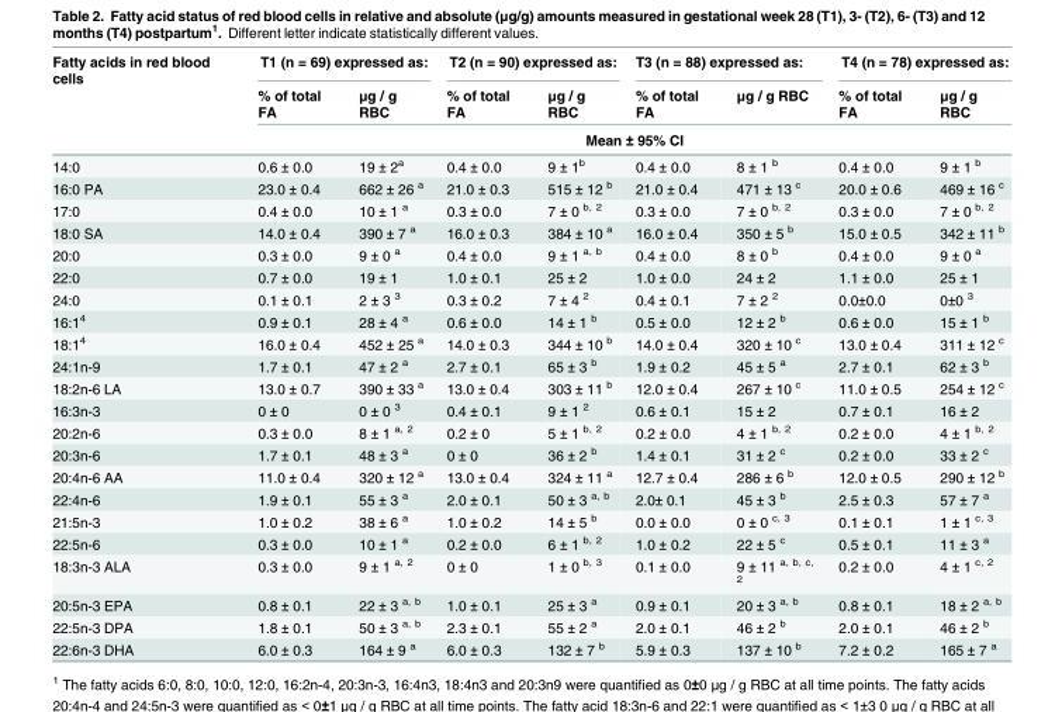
<table><thead><tr><td rowspan="3">Fatty acids in red blood cells</td><td colspan="2">T1 (n = 69) expressed as:</td><td colspan="2">T2 (n = 90) expressed as:</td><td colspan="2">T3 (n = 88) expressed as:</td><td colspan="2">T4 (n = 78) expressed as:</td></tr><tr><td>% of total FA</td><td>μg / g RBC</td><td>% of total FA</td><td>μg / g RBC</td><td>% of total FA</td><td>μg / g RBC</td><td>% of total FA</td><td>μg / g RBC</td></tr><tr><td colspan="8">Mean ± 95% CI</td></tr></thead><tbody><tr><td>14:0</td><td>0.6 ± 0.0</td><td>19 ± 2<sup>a</sup></td><td>0.4 ± 0.0</td><td>9 ± 1<sup>b</sup></td><td>0.4 ± 0.0</td><td>8 ± 1 <sup>b</sup></td><td>0.4 ± 0.0</td><td>9 ± 1 <sup>b</sup></td></tr><tr><td>16:0 PA</td><td>23.0 ± 0.4</td><td>662 ± 26 <sup>a</sup></td><td>21.0 ± 0.3</td><td>515 ± 12 <sup>b</sup></td><td>21.0 ± 0.4</td><td>471 ± 13 <sup>c</sup></td><td>20.0 ± 0.6</td><td>469 ± 16 <sup>c</sup></td></tr><tr><td>17:0</td><td>0.4 ± 0.0</td><td>10 ± 1 <sup>a</sup></td><td>0.3 ± 0.0</td><td>7 ± 0 <sup>b, 2</sup></td><td>0.3 ± 0.0</td><td>7 ± 0 <sup>b, 2</sup></td><td>0.3 ± 0.0</td><td>7 ± 0 <sup>b, 2</sup></td></tr><tr><td>18:0 SA</td><td>14.0 ± 0.4</td><td>390 ± 7 <sup>a</sup></td><td>16.0 ± 0.3</td><td>384 ± 10 <sup>a</sup></td><td>16.0 ± 0.4</td><td>350 ± 5 <sup>b</sup></td><td>15.0 ± 0.5</td><td>342 ± 11 <sup>b</sup></td></tr><tr><td>20:0</td><td>0.3 ± 0.0</td><td>9 ± 0 <sup>a</sup></td><td>0.4 ± 0.0</td><td>9 ± 1 <sup>a, b</sup></td><td>0.4 ± 0.0</td><td>8 ± 0 <sup>b</sup></td><td>0.4 ± 0.0</td><td>9 ± 0 <sup>a</sup></td></tr><tr><td>22:0</td><td>0.7 ± 0.0</td><td>19 ± 1</td><td>1.0 ± 0.1</td><td>25 ± 2</td><td>1.0 ± 0.0</td><td>24 ± 2</td><td>1.1 ± 0.0</td><td>25 ± 1</td></tr><tr><td>24:0</td><td>0.1 ± 0.1</td><td>2 ± 3 <sup>3</sup></td><td>0.3 ± 0.2</td><td>7 ± 4 <sup>2</sup></td><td>0.4 ± 0.1</td><td>7 ± 2 <sup>2</sup></td><td>0.0±0.0</td><td>0±0 <sup>3</sup></td></tr><tr><td>16:1<sup>4</sup></td><td>0.9 ± 0.1</td><td>28 ± 4 <sup>a</sup></td><td>0.6 ± 0.0</td><td>14 ± 1 <sup>b</sup></td><td>0.5 ± 0.0</td><td>12 ± 2 <sup>b</sup></td><td>0.6 ± 0.0</td><td>15 ± 1 <sup>b</sup></td></tr><tr><td>18:1<sup>4</sup></td><td>16.0 ± 0.4</td><td>452 ± 25 <sup>a</sup></td><td>14.0 ± 0.3</td><td>344 ± 10 <sup>b</sup></td><td>14.0 ± 0.4</td><td>320 ± 10 <sup>c</sup></td><td>13.0 ± 0.4</td><td>311 ± 12 <sup>c</sup></td></tr><tr><td>24:1n-9</td><td>1.7 ± 0.1</td><td>47 ± 2 <sup>a</sup></td><td>2.7 ± 0.1</td><td>65 ± 3 <sup>b</sup></td><td>1.9 ± 0.2</td><td>45 ± 5 <sup>a</sup></td><td>2.7 ± 0.1</td><td>62 ± 3 <sup>b</sup></td></tr><tr><td>18:2n-6 LA</td><td>13.0 ± 0.7</td><td>390 ± 33 <sup>a</sup></td><td>13.0 ± 0.4</td><td>303 ± 11 <sup>b</sup></td><td>12.0 ± 0.4</td><td>267 ± 10 <sup>c</sup></td><td>11.0 ± 0.5</td><td>254 ± 12 <sup>c</sup></td></tr><tr><td>16:3n-3</td><td>0 ± 0</td><td>0 ± 0 <sup>3</sup></td><td>0.4 ± 0.1</td><td>9 ± 1 <sup>2</sup></td><td>0.6 ± 0.1</td><td>15 ± 2</td><td>0.7 ± 0.1</td><td>16 ± 2</td></tr><tr><td>20:2n-6</td><td>0.3 ± 0.0</td><td>8 ± 1 <sup>a, 2</sup></td><td>0.2 ± 0</td><td>5 ± 1 <sup>b, 2</sup></td><td>0.2 ± 0.0</td><td>4 ± 1 <sup>b, 2</sup></td><td>0.2 ± 0.0</td><td>4 ± 1 <sup>b, 2</sup></td></tr><tr><td>20:3n-6</td><td>1.7 ± 0.1</td><td>48 ± 3 <sup>a</sup></td><td>0 ± 0</td><td>36 ± 2 <sup>b</sup></td><td>1.4 ± 0.1</td><td>31 ± 2 <sup>c</sup></td><td>0.2 ± 0.0</td><td>33 ± 2 <sup>c</sup></td></tr><tr><td>20:4n-6 AA</td><td>11.0 ± 0.4</td><td>320 ± 12 <sup>a</sup></td><td>13.0 ± 0.4</td><td>324 ± 11 <sup>a</sup></td><td>12.7 ± 0.4</td><td>286 ± 6 <sup>b</sup></td><td>12.0 ± 0.5</td><td>290 ± 12 <sup>b</sup></td></tr><tr><td>22:4n-6</td><td>1.9 ± 0.1</td><td>55 ± 3 <sup>a</sup></td><td>2.0 ± 0.1</td><td>50 ± 3 <sup>a, b</sup></td><td>2.0± 0.1</td><td>45 ± 3 <sup>b</sup></td><td>2.5 ± 0.3</td><td>57 ± 7 <sup>a</sup></td></tr><tr><td>21:5n-3</td><td>1.0 ± 0.2</td><td>38 ± 6 <sup>a</sup></td><td>1.0 ± 0.2</td><td>14 ± 5 <sup>b</sup></td><td>0.0 ± 0.0</td><td>0 ± 0 <sup>c, 3</sup></td><td>0.1 ± 0.1</td><td>1 ± 1 <sup>c, 3</sup></td></tr><tr><td>22:5n-6</td><td>0.3 ± 0.0</td><td>10 ± 1 <sup>a</sup></td><td>0.2 ± 0.0</td><td>6 ± 1 <sup>b, 2</sup></td><td>1.0 ± 0.2</td><td>22 ± 5 <sup>c</sup></td><td>0.5 ± 0.1</td><td>11 ± 3 <sup>a</sup></td></tr><tr><td>18:3n-3 ALA</td><td>0.3 ± 0.0</td><td>9 ± 1 <sup>a, 2</sup></td><td>0 ± 0</td><td>1 ± 0 <sup>b, 3</sup></td><td>0.1 ± 0.0</td><td>9 ± 11 <sup>a, b, c, 2</sup></td><td>0.2 ± 0.0</td><td>4 ± 1 <sup>c, 2</sup></td></tr><tr><td>20:5n-3 EPA</td><td>0.8 ± 0.1</td><td>22 ± 3 <sup>a, b</sup></td><td>1.0 ± 0.1</td><td>25 ± 3 <sup>a</sup></td><td>0.9 ± 0.1</td><td>20 ± 3 <sup>a, b</sup></td><td>0.8 ± 0.1</td><td>18 ± 2 <sup>a, b</sup></td></tr><tr><td>22:5n-3 DPA</td><td>1.8 ± 0.1</td><td>50 ± 3 <sup>a, b</sup></td><td>2.3 ± 0.1</td><td>55 ± 2 <sup>a</sup></td><td>2.0 ± 0.1</td><td>46 ± 2 <sup>b</sup></td><td>2.0 ± 0.1</td><td>46 ± 2 <sup>b</sup></td></tr><tr><td>22:6n-3 DHA</td><td>6.0 ± 0.3</td><td>164 ± 9 <sup>a</sup></td><td>6.0 ± 0.3</td><td>132 ± 7 <sup>b</sup></td><td>5.9 ± 0.3</td><td>137 ± 10 <sup>b</sup></td><td>7.2 ± 0.2</td><td>165 ± 7 <sup>a</sup></td></tr></tbody></table>